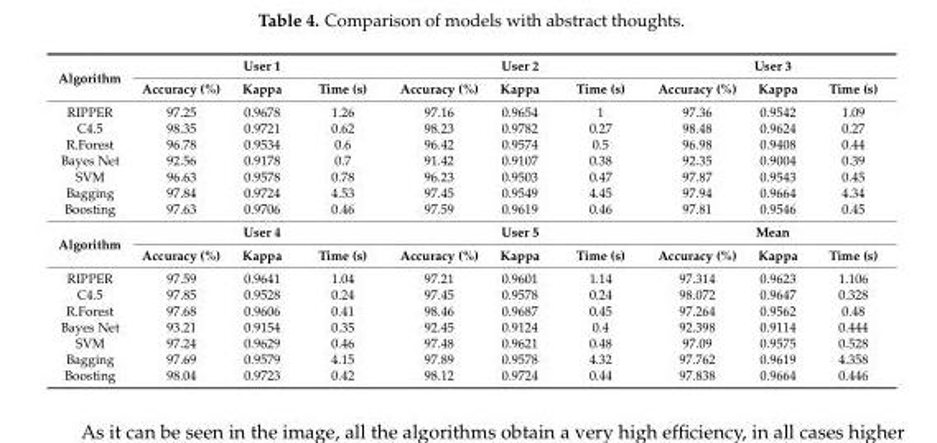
<table><tbody><tr><td rowspan="2">Algorithm</td><td colspan="3">User 1</td><td colspan="3">User 2</td><td colspan="3">User 3</td></tr><tr><td>Accuracy (%)</td><td>Kappa</td><td>Time (s)</td><td>Accuracy (%)</td><td>Kappa</td><td>Time (s)</td><td>Accuracy (%)</td><td>Kappa</td><td>Time (s)</td></tr><tr><td>RIPPER</td><td>97.25</td><td>0.9678</td><td>1.26</td><td>97.16</td><td>0.9654</td><td>1</td><td>97.36</td><td>0.9542</td><td>1.09</td></tr><tr><td>C4.5</td><td>98.35</td><td>0.9721</td><td>0.62</td><td>98.23</td><td>0.9782</td><td>0.27</td><td>98.48</td><td>0.9624</td><td>0.27</td></tr><tr><td>R.Forest</td><td>96.78</td><td>0.9534</td><td>0.6</td><td>96.42</td><td>0.9574</td><td>0.5</td><td>96.98</td><td>0.9408</td><td>0.44</td></tr><tr><td>Bayes Net</td><td>92.56</td><td>0.9178</td><td>0.7</td><td>91.42</td><td>0.9107</td><td>0.38</td><td>92.35</td><td>0.9004</td><td>0.39</td></tr><tr><td>SVM</td><td>96.63</td><td>0.9578</td><td>0.78</td><td>96.23</td><td>0.9503</td><td>0.47</td><td>97.87</td><td>0.9543</td><td>0.45</td></tr><tr><td>Bagging</td><td>97.84</td><td>0.9724</td><td>4.53</td><td>97.45</td><td>0.9549</td><td>4.45</td><td>97.94</td><td>0.9664</td><td>4.34</td></tr><tr><td>Boosting</td><td>97.63</td><td>0.9706</td><td>0.46</td><td>97.59</td><td>0.9619</td><td>0.46</td><td>97.81</td><td>0.9546</td><td>0.45</td></tr><tr><td rowspan="2">Algorithm</td><td colspan="3">User 4</td><td colspan="3">User 5</td><td colspan="3">Mean</td></tr><tr><td>Accuracy (%)</td><td>Kappa</td><td>Time (s)</td><td>Accuracy (%)</td><td>Kappa</td><td>Time (s)</td><td>Accuracy (%)</td><td>Kappa</td><td>Time (s)</td></tr><tr><td>RIPPER</td><td>97.59</td><td>0.9641</td><td>1.04</td><td>97.21</td><td>0.9601</td><td>1.14</td><td>97.314</td><td>0.9623</td><td>1.106</td></tr><tr><td>C4.5</td><td>97.85</td><td>0.9528</td><td>0.24</td><td>97.45</td><td>0.9578</td><td>0.24</td><td>98.072</td><td>0.9647</td><td>0.328</td></tr><tr><td>R.Forest</td><td>97.68</td><td>0.9606</td><td>0.41</td><td>98.46</td><td>0.9687</td><td>0.45</td><td>97.264</td><td>0.9562</td><td>0.48</td></tr><tr><td>Bayes Net</td><td>93.21</td><td>0.9154</td><td>0.35</td><td>92.45</td><td>0.9124</td><td>0.4</td><td>92.398</td><td>0.9114</td><td>0.444</td></tr><tr><td>SVM</td><td>97.24</td><td>0.9629</td><td>0.46</td><td>97.48</td><td>0.9621</td><td>0.48</td><td>97.09</td><td>0.9575</td><td>0.528</td></tr><tr><td>Bagging</td><td>97.69</td><td>0.9579</td><td>4.15</td><td>97.89</td><td>0.9578</td><td>4.32</td><td>97.762</td><td>0.9619</td><td>4.358</td></tr><tr><td>Boosting</td><td>98.04</td><td>0.9723</td><td>0.42</td><td>98.12</td><td>0.9724</td><td>0.44</td><td>97.838</td><td>0.9664</td><td>0.446</td></tr></tbody></table>